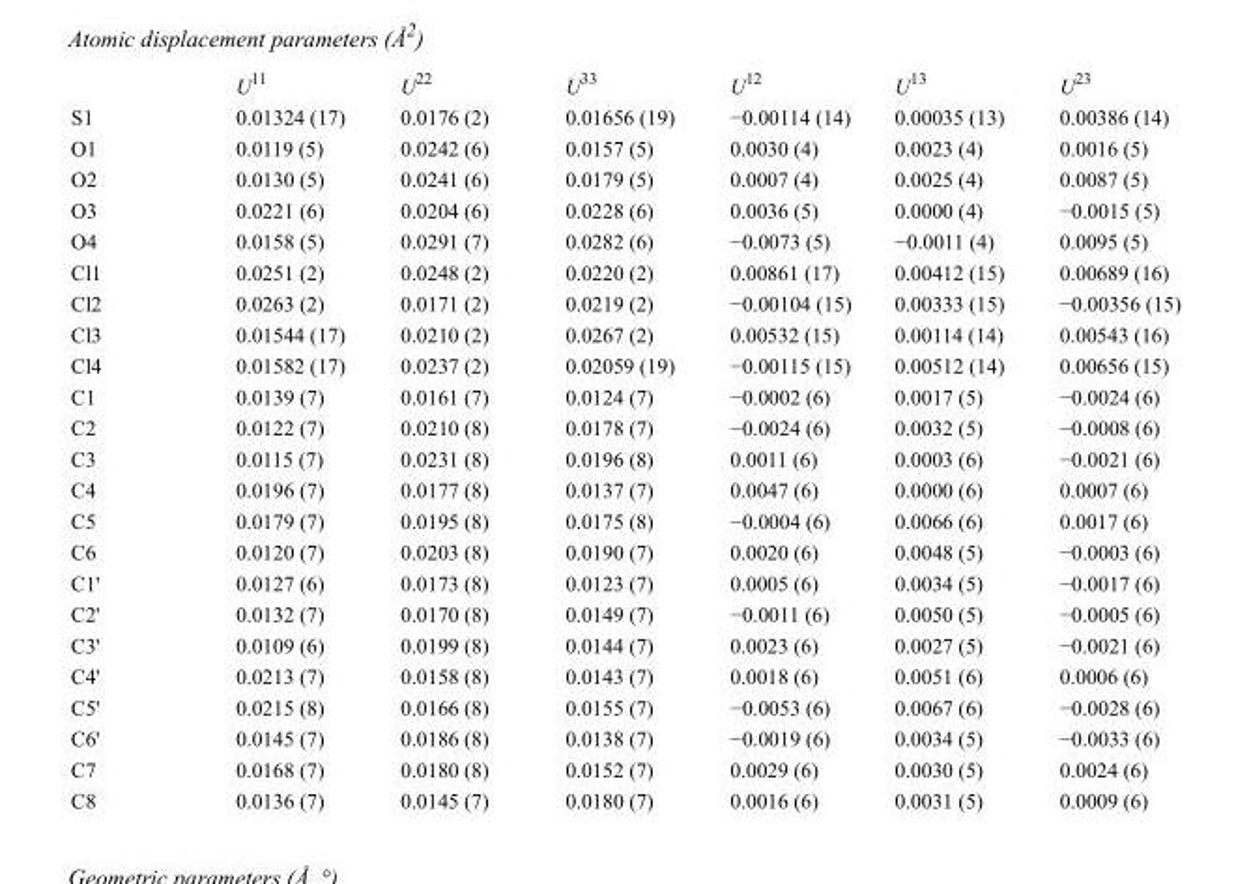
<table><thead><tr><td></td><td>U<sup>11</sup></td><td>U<sup>22</sup></td><td>U<sup>33</sup></td><td>U<sup>12</sup></td><td>U<sup>13</sup></td><td>U<sup>23</sup></td></tr></thead><tbody><tr><td>S1</td><td>0.01324 (17)</td><td>0.0176 (2)</td><td>0.01656 (19)</td><td>−0.00114 (14)</td><td>0.00035 (13)</td><td>0.00386 (14)</td></tr><tr><td>O1</td><td>0.0119 (5)</td><td>0.0242 (6)</td><td>0.0157 (5)</td><td>0.0030 (4)</td><td>0.0023 (4)</td><td>0.0016 (5)</td></tr><tr><td>O2</td><td>0.0130 (5)</td><td>0.0241 (6)</td><td>0.0179 (5)</td><td>0.0007 (4)</td><td>0.0025 (4)</td><td>0.0087 (5)</td></tr><tr><td>O3</td><td>0.0221 (6)</td><td>0.0204 (6)</td><td>0.0228 (6)</td><td>0.0036 (5)</td><td>0.0000 (4)</td><td>−0.0015 (5)</td></tr><tr><td>O4</td><td>0.0158 (5)</td><td>0.0291 (7)</td><td>0.0282 (6)</td><td>−0.0073 (5)</td><td>−0.0011 (4)</td><td>0.0095 (5)</td></tr><tr><td>Cl1</td><td>0.0251 (2)</td><td>0.0248 (2)</td><td>0.0220 (2)</td><td>0.00861 (17)</td><td>0.00412 (15)</td><td>0.00689 (16)</td></tr><tr><td>Cl2</td><td>0.0263 (2)</td><td>0.0171 (2)</td><td>0.0219 (2)</td><td>−0.00104 (15)</td><td>0.00333 (15)</td><td>−0.00356 (15)</td></tr><tr><td>Cl3</td><td>0.01544 (17)</td><td>0.0210 (2)</td><td>0.0267 (2)</td><td>0.00532 (15)</td><td>0.00114 (14)</td><td>0.00543 (16)</td></tr><tr><td>Cl4</td><td>0.01582 (17)</td><td>0.0237 (2)</td><td>0.02059 (19)</td><td>−0.00115 (15)</td><td>0.00512 (14)</td><td>0.00656 (15)</td></tr><tr><td>C1</td><td>0.0139 (7)</td><td>0.0161 (7)</td><td>0.0124 (7)</td><td>−0.0002 (6)</td><td>0.0017 (5)</td><td>−0.0024 (6)</td></tr><tr><td>C2</td><td>0.0122 (7)</td><td>0.0210 (8)</td><td>0.0178 (7)</td><td>−0.0024 (6)</td><td>0.0032 (5)</td><td>−0.0008 (6)</td></tr><tr><td>C3</td><td>0.0115 (7)</td><td>0.0231 (8)</td><td>0.0196 (8)</td><td>0.0011 (6)</td><td>0.0003 (6)</td><td>−0.0021 (6)</td></tr><tr><td>C4</td><td>0.0196 (7)</td><td>0.0177 (8)</td><td>0.0137 (7)</td><td>0.0047 (6)</td><td>0.0000 (6)</td><td>0.0007 (6)</td></tr><tr><td>C5</td><td>0.0179 (7)</td><td>0.0195 (8)</td><td>0.0175 (8)</td><td>−0.0004 (6)</td><td>0.0066 (6)</td><td>0.0017 (6)</td></tr><tr><td>C6</td><td>0.0120 (7)</td><td>0.0203 (8)</td><td>0.0190 (7)</td><td>0.0020 (6)</td><td>0.0048 (5)</td><td>−0.0003 (6)</td></tr><tr><td>C1&#x27;</td><td>0.0127 (6)</td><td>0.0173 (8)</td><td>0.0123 (7)</td><td>0.0005 (6)</td><td>0.0034 (5)</td><td>−0.0017 (6)</td></tr><tr><td>C2&#x27;</td><td>0.0132 (7)</td><td>0.0170 (8)</td><td>0.0149 (7)</td><td>−0.0011 (6)</td><td>0.0050 (5)</td><td>−0.0005 (6)</td></tr><tr><td>C3&#x27;</td><td>0.0109 (6)</td><td>0.0199 (8)</td><td>0.0144 (7)</td><td>0.0023 (6)</td><td>0.0027 (5)</td><td>−0.0021 (6)</td></tr><tr><td>C4&#x27;</td><td>0.0213 (7)</td><td>0.0158 (8)</td><td>0.0143 (7)</td><td>0.0018 (6)</td><td>0.0051 (6)</td><td>0.0006 (6)</td></tr><tr><td>C5&#x27;</td><td>0.0215 (8)</td><td>0.0166 (8)</td><td>0.0155 (7)</td><td>−0.0053 (6)</td><td>0.0067 (6)</td><td>−0.0028 (6)</td></tr><tr><td>C6&#x27;</td><td>0.0145 (7)</td><td>0.0186 (8)</td><td>0.0138 (7)</td><td>−0.0019 (6)</td><td>0.0034 (5)</td><td>−0.0033 (6)</td></tr><tr><td>C7</td><td>0.0168 (7)</td><td>0.0180 (8)</td><td>0.0152 (7)</td><td>0.0029 (6)</td><td>0.0030 (5)</td><td>0.0024 (6)</td></tr><tr><td>C8</td><td>0.0136 (7)</td><td>0.0145 (7)</td><td>0.0180 (7)</td><td>0.0016 (6)</td><td>0.0031 (5)</td><td>0.0009 (6)</td></tr></tbody></table>